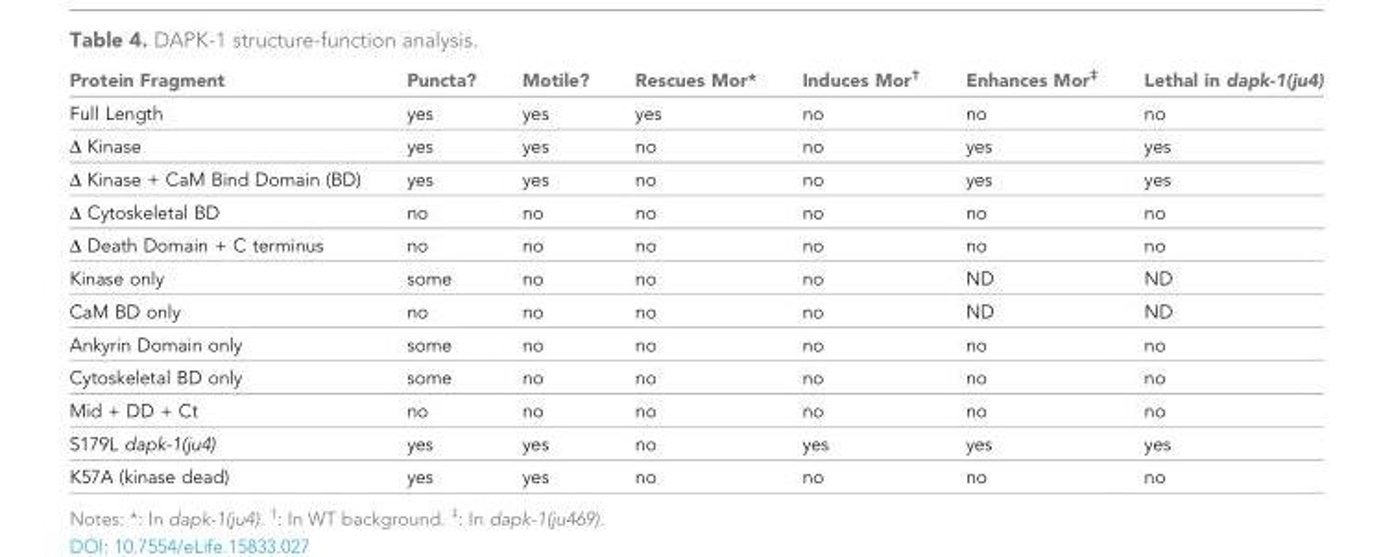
<table><thead><tr><td>Protein Fragment</td><td>Puncta?</td><td>Motile?</td><td>Rescues Mor*</td><td>Induces Mor<sup>†</sup></td><td>Enhances Mor<sup>‡</sup></td><td>Lethal in dapk-1(ju4)</td></tr></thead><tbody><tr><td>Full Length</td><td>yes</td><td>yes</td><td>yes</td><td>no</td><td>no</td><td>no</td></tr><tr><td>Δ Kinase</td><td>yes</td><td>yes</td><td>no</td><td>no</td><td>yes</td><td>yes</td></tr><tr><td>Δ Kinase + CaM Bind Domain (BD)</td><td>yes</td><td>yes</td><td>no</td><td>no</td><td>yes</td><td>yes</td></tr><tr><td>Δ Cytoskeletal BD</td><td>no</td><td>no</td><td>no</td><td>no</td><td>no</td><td>no</td></tr><tr><td>Δ Death Domain + C terminus</td><td>no</td><td>no</td><td>no</td><td>no</td><td>no</td><td>no</td></tr><tr><td>Kinase only</td><td>some</td><td>no</td><td>no</td><td>no</td><td>ND</td><td>ND</td></tr><tr><td>CaM BD only</td><td>no</td><td>no</td><td>no</td><td>no</td><td>ND</td><td>ND</td></tr><tr><td>Ankyrin Domain only</td><td>some</td><td>no</td><td>no</td><td>no</td><td>no</td><td>no</td></tr><tr><td>Cytoskeletal BD only</td><td>some</td><td>no</td><td>no</td><td>no</td><td>no</td><td>no</td></tr><tr><td>Mid + DD + Ct</td><td>no</td><td>no</td><td>no</td><td>no</td><td>no</td><td>no</td></tr><tr><td>S179L dapk-1(ju4)</td><td>yes</td><td>yes</td><td>no</td><td>yes</td><td>yes</td><td>yes</td></tr><tr><td>K57A (kinase dead)</td><td>yes</td><td>yes</td><td>no</td><td>no</td><td>no</td><td>no</td></tr></tbody></table>